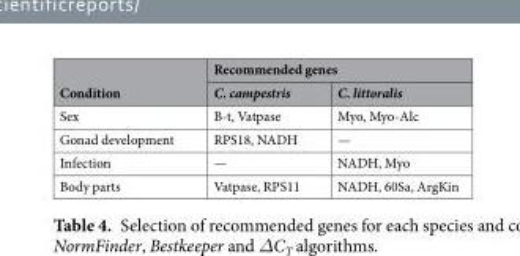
<table><thead><tr><td rowspan="2">Condition</td><td colspan="2">Recommended genes</td></tr><tr><td>C. campestris</td><td>C. littoralis</td></tr></thead><tbody><tr><td>Sex</td><td>B-t, Vatpase</td><td>Myo, Myo-Alc</td></tr><tr><td>Gonad development</td><td>RPS18, NADH</td><td>—</td></tr><tr><td>Infection</td><td>—</td><td>NADH, Myo</td></tr><tr><td>Body parts</td><td>Vatpase, RPS11</td><td>NADH, 60Sa, ArgKin</td></tr></tbody></table>